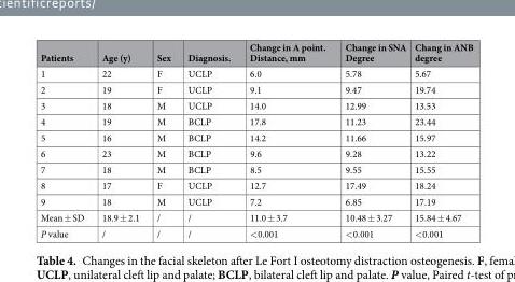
<table><thead><tr><td>Patients</td><td>Age (y)</td><td>Sex</td><td>Diagnosis.</td><td>Change in A point. Distance, mm</td><td>Change in SNA Degree</td><td>Chang in ANB degree</td></tr></thead><tbody><tr><td>1</td><td>22</td><td>F</td><td>UCLP</td><td>6.0</td><td>5.78</td><td>5.67</td></tr><tr><td>2</td><td>19</td><td>F</td><td>UCLP</td><td>9.1</td><td>9.47</td><td>19.74</td></tr><tr><td>3</td><td>18</td><td>M</td><td>UCLP</td><td>14.0</td><td>12.99</td><td>13.53</td></tr><tr><td>4</td><td>19</td><td>M</td><td>BCLP</td><td>17.8</td><td>11.23</td><td>23.44</td></tr><tr><td>5</td><td>16</td><td>M</td><td>BCLP</td><td>14.2</td><td>11.66</td><td>15.97</td></tr><tr><td>6</td><td>23</td><td>M</td><td>BCLP</td><td>9.6</td><td>9.28</td><td>13.22</td></tr><tr><td>7</td><td>18</td><td>M</td><td>BCLP</td><td>8.5</td><td>9.55</td><td>15.55</td></tr><tr><td>8</td><td>17</td><td>F</td><td>UCLP</td><td>12.7</td><td>17.49</td><td>18.24</td></tr><tr><td>9</td><td>18</td><td>M</td><td>UCLP</td><td>7.2</td><td>6.85</td><td>17.19</td></tr><tr><td>Mean ± SD</td><td>18.9 ± 2.1</td><td>/</td><td>/</td><td>11.0 ± 3.7</td><td>10.48 ± 3.27</td><td>15.84 ± 4.67</td></tr><tr><td>P value</td><td>/</td><td>/</td><td>/</td><td>&lt;0.001</td><td>&lt;0.001</td><td>&lt;0.001</td></tr></tbody></table>